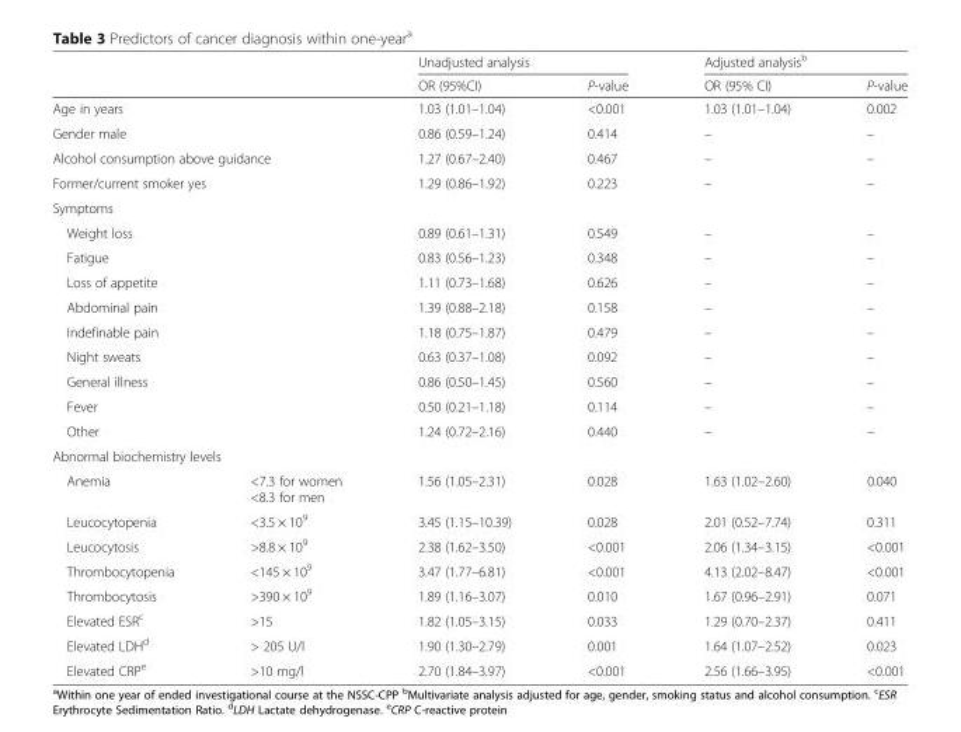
<table><thead><tr><td rowspan="2"></td><td rowspan="2"></td><td colspan="2">Unadjusted analysis</td><td colspan="2">Adjusted analysis<sup>b</sup></td></tr><tr><td>OR (95%CI)</td><td>P-value</td><td>OR (95% CI)</td><td>P-value</td></tr></thead><tbody><tr><td colspan="2">Age in years</td><td>1.03 (1.01–1.04)</td><td>&lt;0.001</td><td>1.03 (1.01–1.04)</td><td>0.002</td></tr><tr><td colspan="2">Gender male</td><td>0.86 (0.59–1.24)</td><td>0.414</td><td>–</td><td>–</td></tr><tr><td colspan="2">Alcohol consumption above guidance</td><td>1.27 (0.67–2.40)</td><td>0.467</td><td>–</td><td>–</td></tr><tr><td colspan="2">Former/current smoker yes</td><td>1.29 (0.86–1.92)</td><td>0.223</td><td>–</td><td>–</td></tr><tr><td colspan="6">Symptoms</td></tr><tr><td colspan="2">Weight loss</td><td>0.89 (0.61–1.31)</td><td>0.549</td><td>–</td><td>–</td></tr><tr><td colspan="2">Fatigue</td><td>0.83 (0.56–1.23)</td><td>0.348</td><td>–</td><td>–</td></tr><tr><td colspan="2">Loss of appetite</td><td>1.11 (0.73–1.68)</td><td>0.626</td><td>–</td><td>–</td></tr><tr><td colspan="2">Abdominal pain</td><td>1.39 (0.88–2.18)</td><td>0.158</td><td>–</td><td>–</td></tr><tr><td colspan="2">Indefinable pain</td><td>1.18 (0.75–1.87)</td><td>0.479</td><td>–</td><td>–</td></tr><tr><td colspan="2">Night sweats</td><td>0.63 (0.37–1.08)</td><td>0.092</td><td>–</td><td>–</td></tr><tr><td colspan="2">General illness</td><td>0.86 (0.50–1.45)</td><td>0.560</td><td>–</td><td>–</td></tr><tr><td colspan="2">Fever</td><td>0.50 (0.21–1.18)</td><td>0.114</td><td>–</td><td>–</td></tr><tr><td colspan="2">Other</td><td>1.24 (0.72–2.16)</td><td>0.440</td><td>–</td><td>–</td></tr><tr><td colspan="6">Abnormal biochemistry levels</td></tr><tr><td>Anemia</td><td>&lt;7.3 for women &lt;8.3 for men</td><td>1.56 (1.05–2.31)</td><td>0.028</td><td>1.63 (1.02–2.60)</td><td>0.040</td></tr><tr><td>Leucocytopenia</td><td>&lt;3.5 × 10<sup>9</sup></td><td>3.45 (1.15–10.39)</td><td>0.028</td><td>2.01 (0.52–7.74)</td><td>0.311</td></tr><tr><td>Leucocytosis</td><td>&gt;8.8 × 10<sup>9</sup></td><td>2.38 (1.62–3.50)</td><td>&lt;0.001</td><td>2.06 (1.34–3.15)</td><td>&lt;0.001</td></tr><tr><td>Thrombocytopenia</td><td>&lt;145 × 10<sup>9</sup></td><td>3.47 (1.77–6.81)</td><td>&lt;0.001</td><td>4.13 (2.02–8.47)</td><td>&lt;0.001</td></tr><tr><td>Thrombocytosis</td><td>&gt;390 × 10<sup>9</sup></td><td>1.89 (1.16–3.07)</td><td>0.010</td><td>1.67 (0.96–2.91)</td><td>0.071</td></tr><tr><td>Elevated ESR<sup>c</sup></td><td>&gt;15</td><td>1.82 (1.05–3.15)</td><td>0.033</td><td>1.29 (0.70–2.37)</td><td>0.411</td></tr><tr><td>Elevated LDH<sup>d</sup></td><td>&gt; 205 U/l</td><td>1.90 (1.30–2.79)</td><td>0.001</td><td>1.64 (1.07–2.52)</td><td>0.023</td></tr><tr><td>Elevated CRP<sup>e</sup></td><td>&gt;10 mg/l</td><td>2.70 (1.84–3.97)</td><td>&lt;0.001</td><td>2.56 (1.66–3.95)</td><td>&lt;0.001</td></tr></tbody></table>